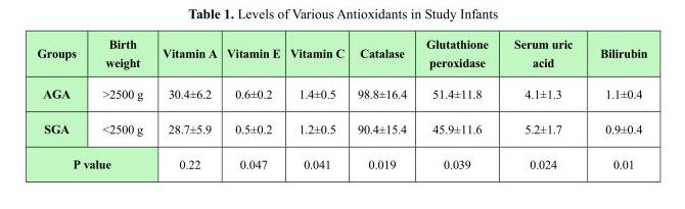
<table><tbody><tr><td>Groups</td><td>Birth weight</td><td>Vitamin A</td><td>Vitamin E</td><td>Vitamin C</td><td>Catalase</td><td>Glutathione peroxidase</td><td>Serum uric acid</td><td>Bilirubin</td></tr><tr><td>AGA</td><td>&gt;2500 g</td><td>30.4±6.2</td><td>0.6±0.2</td><td>1.4±0.5</td><td>98.8±16.4</td><td>51.4±11.8</td><td>4.1±1.3</td><td>1.1±0.4</td></tr><tr><td>SGA</td><td>&lt;2500 g</td><td>28.7±5.9</td><td>0.5±0.2</td><td>1.2±0.5</td><td>90.4±15.4</td><td>45.9±11.6</td><td>5.2±1.7</td><td>0.9±0.4</td></tr><tr><td colspan="2">P value</td><td>0.22</td><td>0.047</td><td>0.041</td><td>0.019</td><td>0.039</td><td>0.024</td><td>0.01</td></tr></tbody></table>